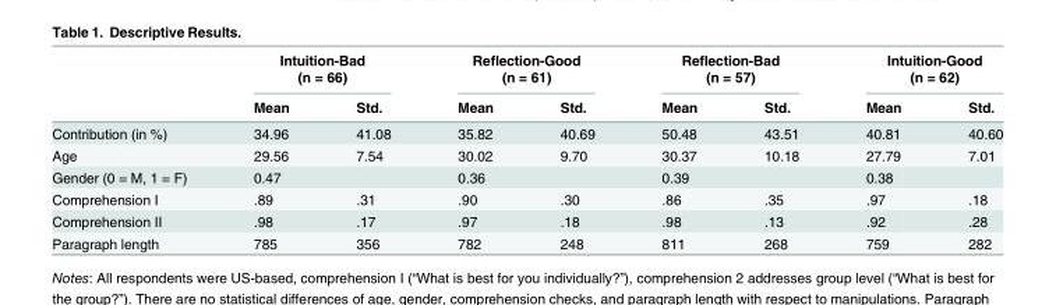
<table><thead><tr><td rowspan="2"></td><td colspan="2">Intuition-Bad (n = 66)</td><td colspan="2">Reflection-Good (n = 61)</td><td colspan="2">Reflection-Bad (n = 57)</td><td colspan="2">Intuition-Good (n = 62)</td></tr><tr><td>Mean</td><td>Std.</td><td>Mean</td><td>Std.</td><td>Mean</td><td>Std.</td><td>Mean</td><td>Std.</td></tr></thead><tbody><tr><td>Contribution (in %)</td><td>34.96</td><td>41.08</td><td>35.82</td><td>40.69</td><td>50.48</td><td>43.51</td><td>40.81</td><td>40.60</td></tr><tr><td>Age</td><td>29.56</td><td>7.54</td><td>30.02</td><td>9.70</td><td>30.37</td><td>10.18</td><td>27.79</td><td>7.01</td></tr><tr><td>Gender (0 = M, 1 = F)</td><td>0.47</td><td></td><td>0.36</td><td></td><td>0.39</td><td></td><td>0.38</td><td></td></tr><tr><td>Comprehension I</td><td>.89</td><td>.31</td><td>.90</td><td>.30</td><td>.86</td><td>.35</td><td>.97</td><td>.18</td></tr><tr><td>Comprehension II</td><td>.98</td><td>.17</td><td>.97</td><td>.18</td><td>.98</td><td>.13</td><td>.92</td><td>.28</td></tr><tr><td>Paragraph length</td><td>785</td><td>356</td><td>782</td><td>248</td><td>811</td><td>268</td><td>759</td><td>282</td></tr></tbody></table>